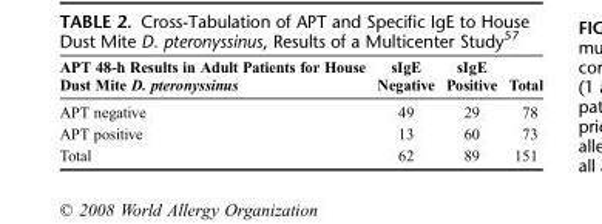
<table><thead><tr><td>APT 48-h Results in Adult Patients for House Dust Mite D. pteronyssinus</td><td>sIgE Negative</td><td>sIgE Positive</td><td>Total</td></tr></thead><tbody><tr><td>APT negative</td><td>49</td><td>29</td><td>78</td></tr><tr><td>APT positive</td><td>13</td><td>60</td><td>73</td></tr><tr><td>Total</td><td>62</td><td>89</td><td>151</td></tr></tbody></table>